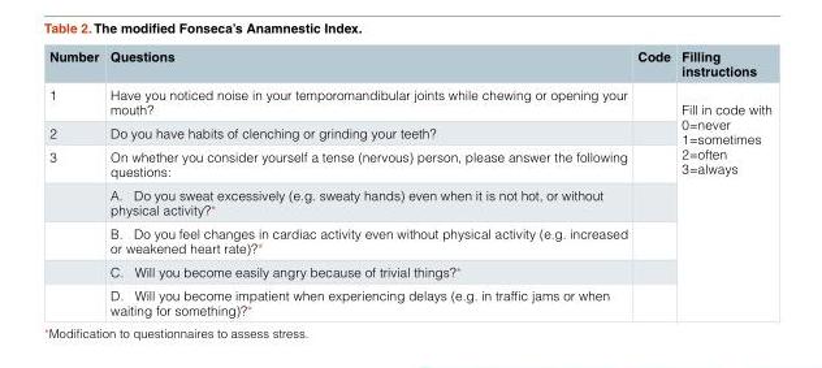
<table><thead><tr><td>Number</td><td>Questions</td><td>Code</td><td>Filling instructions</td></tr></thead><tbody><tr><td>1</td><td>Have you noticed noise in your temporomandibular joints while chewing or opening your mouth?</td><td></td><td rowspan="7">Fill in code with 0=never 1=sometimes 2=often 3=always</td></tr><tr><td>2</td><td>Do you have habits of clenching or grinding your teeth?</td><td></td></tr><tr><td rowspan="5">3</td><td>On whether you consider yourself a tense (nervous) person, please answer the following questions:</td><td></td></tr><tr><td>A. Do you sweat excessively (e.g. sweaty hands) even when it is not hot, or without physical activity?*</td><td></td></tr><tr><td>B. Do you feel changes in cardiac activity even without physical activity (e.g. increased or weakened heart rate)?*</td><td></td></tr><tr><td>C. Will you become easily angry because of trivial things?*</td><td></td></tr><tr><td>D. Will you become impatient when experiencing delays (e.g. in traffic jams or when waiting for something)?*</td><td></td></tr></tbody></table>